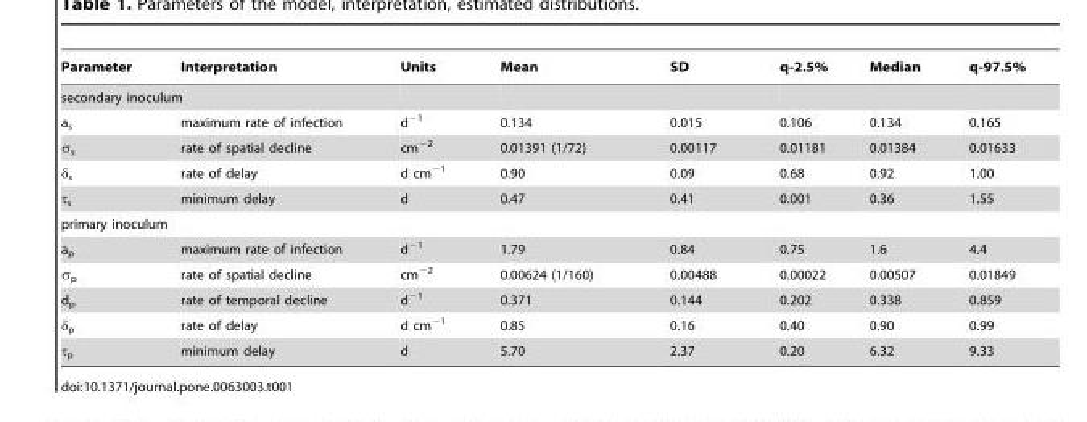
<table><thead><tr><td>Parameter</td><td>Interpretation</td><td>Units</td><td>Mean</td><td>SD</td><td>q-2.5%</td><td>Median</td><td>q-97.5%</td></tr></thead><tbody><tr><td colspan="8">secondary inoculum</td></tr><tr><td>a<sub>s</sub></td><td>maximum rate of infection</td><td>d<sup>−1</sup></td><td>0.134</td><td>0.015</td><td>0.106</td><td>0.134</td><td>0.165</td></tr><tr><td>σ<sub>s</sub></td><td>rate of spatial decline</td><td>cm<sup>−2</sup></td><td>0.01391 (1/72)</td><td>0.00117</td><td>0.01181</td><td>0.01384</td><td>0.01633</td></tr><tr><td>δ<sub>s</sub></td><td>rate of delay</td><td>d cm<sup>−1</sup></td><td>0.90</td><td>0.09</td><td>0.68</td><td>0.92</td><td>1.00</td></tr><tr><td>τ<sub>s</sub></td><td>minimum delay</td><td>d</td><td>0.47</td><td>0.41</td><td>0.001</td><td>0.36</td><td>1.55</td></tr><tr><td colspan="8">primary inoculum</td></tr><tr><td>a<sub>p</sub></td><td>maximum rate of infection</td><td>d<sup>−1</sup></td><td>1.79</td><td>0.84</td><td>0.75</td><td>1.6</td><td>4.4</td></tr><tr><td>σ<sub>p</sub></td><td>rate of spatial decline</td><td>cm<sup>−2</sup></td><td>0.00624 (1/160)</td><td>0.00488</td><td>0.00022</td><td>0.00507</td><td>0.01849</td></tr><tr><td>d<sub>p</sub></td><td>rate of temporal decline</td><td>d<sup>−1</sup></td><td>0.371</td><td>0.144</td><td>0.202</td><td>0.338</td><td>0.859</td></tr><tr><td>δ<sub>p</sub></td><td>rate of delay</td><td>d cm<sup>−1</sup></td><td>0.85</td><td>0.16</td><td>0.40</td><td>0.90</td><td>0.99</td></tr><tr><td>τ<sub>p</sub></td><td>minimum delay</td><td>d</td><td>5.70</td><td>2.37</td><td>0.20</td><td>6.32</td><td>9.33</td></tr></tbody></table>